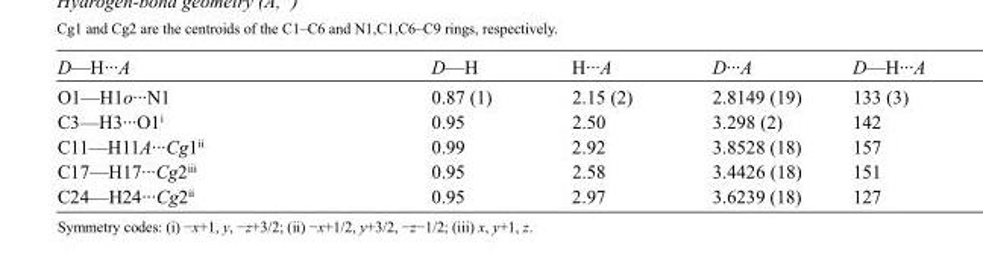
<table><tbody><tr><td>D—H···A</td><td>D—H</td><td>H···A</td><td>D···A</td><td>D—H···A</td></tr><tr><td>O1—H1o···N1</td><td>0.87 (1)</td><td>2.15 (2)</td><td>2.8149 (19)</td><td>133 (3)</td></tr><tr><td>C3—H3···O1<sup>i</sup></td><td>0.95</td><td>2.50</td><td>3.298 (2)</td><td>142</td></tr><tr><td>C11—H11A···Cg1<sup>ii</sup></td><td>0.99</td><td>2.92</td><td>3.8528 (18)</td><td>157</td></tr><tr><td>C17—H17···Cg2<sup>iii</sup></td><td>0.95</td><td>2.58</td><td>3.4426 (18)</td><td>151</td></tr><tr><td>C24—H24···Cg2<sup>ii</sup></td><td>0.95</td><td>2.97</td><td>3.6239 (18)</td><td>127</td></tr></tbody></table>